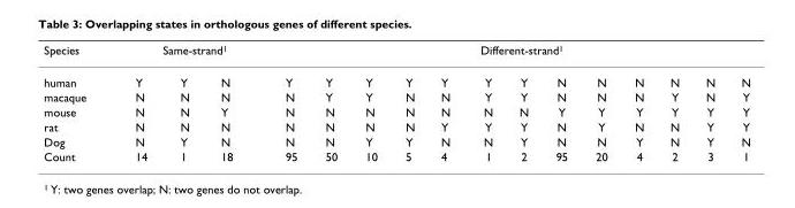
<table><thead><tr><td rowspan="2">Species human</td><td colspan="3">Same-strand<sup>1</sup></td><td colspan="13">Different-strand<sup>1</sup></td></tr><tr><td>Y</td><td>Y</td><td>N</td><td>Y</td><td>Y</td><td>Y</td><td>Y</td><td>Y</td><td>Y</td><td>Y</td><td>N</td><td>N</td><td>N</td><td>N</td><td>N</td><td>N</td></tr></thead><tbody><tr><td>macaque</td><td>N</td><td>N</td><td>N</td><td>N</td><td>Y</td><td>Y</td><td>N</td><td>N</td><td>Y</td><td>Y</td><td>N</td><td>N</td><td>N</td><td>Y</td><td>N</td><td>Y</td></tr><tr><td>mouse</td><td>N</td><td>N</td><td>Y</td><td>N</td><td>N</td><td>N</td><td>N</td><td>N</td><td>N</td><td>N</td><td>Y</td><td>Y</td><td>Y</td><td>Y</td><td>Y</td><td>Y</td></tr><tr><td>rat</td><td>N</td><td>N</td><td>N</td><td>N</td><td>N</td><td>N</td><td>N</td><td>Y</td><td>Y</td><td>Y</td><td>N</td><td>Y</td><td>N</td><td>N</td><td>Y</td><td>Y</td></tr><tr><td>Dog</td><td>N</td><td>Y</td><td>N</td><td>N</td><td>N</td><td>Y</td><td>Y</td><td>N</td><td>N</td><td>Y</td><td>N</td><td>N</td><td>Y</td><td>N</td><td>Y</td><td>N</td></tr><tr><td>Count</td><td>14</td><td>1</td><td>18</td><td>95</td><td>50</td><td>10</td><td>5</td><td>4</td><td>1</td><td>2</td><td>95</td><td>20</td><td>4</td><td>2</td><td>3</td><td>1</td></tr></tbody></table>